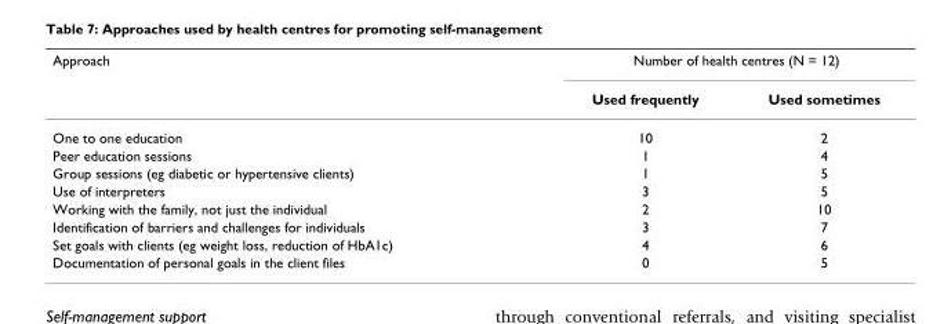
<table><thead><tr><td rowspan="2">Approach</td><td colspan="2">Number of health centres (N = 12)</td></tr><tr><td>Used frequently</td><td>Used sometimes</td></tr></thead><tbody><tr><td>One to one education</td><td>10</td><td>2</td></tr><tr><td>Peer education sessions</td><td>1</td><td>4</td></tr><tr><td>Group sessions (eg diabetic or hypertensive clients)</td><td>1</td><td>5</td></tr><tr><td>Use of interpreters</td><td>3</td><td>5</td></tr><tr><td>Working with the family, not just the individual</td><td>2</td><td>10</td></tr><tr><td>Identification of barriers and challenges for individuals</td><td>3</td><td>7</td></tr><tr><td>Set goals with clients (eg weight loss, reduction of HbA1c)</td><td>4</td><td>6</td></tr><tr><td>Documentation of personal goals in the client files</td><td>0</td><td>5</td></tr></tbody></table>